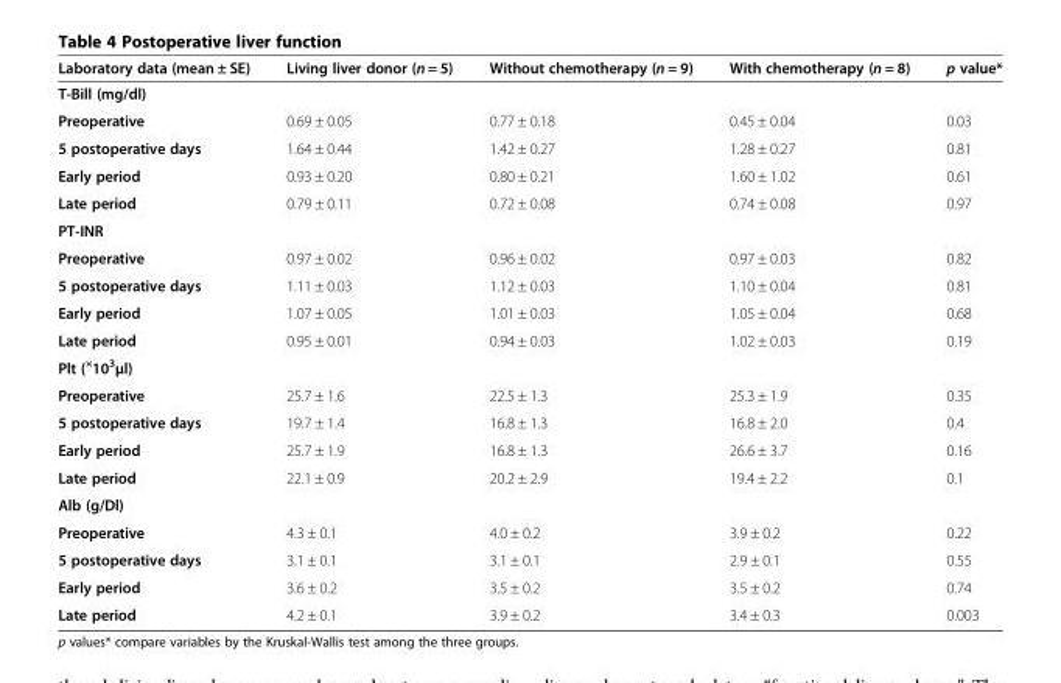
<table><thead><tr><td>Laboratory data (mean ± SE)</td><td>Living liver donor (n = 5)</td><td>Without chemotherapy (n = 9)</td><td>With chemotherapy (n = 8)</td><td>p value*</td></tr></thead><tbody><tr><td colspan="5">T-Bill (mg/dl)</td></tr><tr><td>Preoperative</td><td>0.69 ± 0.05</td><td>0.77 ± 0.18</td><td>0.45 ± 0.04</td><td>0.03</td></tr><tr><td>5 postoperative days</td><td>1.64 ± 0.44</td><td>1.42 ± 0.27</td><td>1.28 ± 0.27</td><td>0.81</td></tr><tr><td>Early period</td><td>0.93 ± 0.20</td><td>0.80 ± 0.21</td><td>1.60 ± 1.02</td><td>0.61</td></tr><tr><td>Late period</td><td>0.79 ± 0.11</td><td>0.72 ± 0.08</td><td>0.74 ± 0.08</td><td>0.97</td></tr><tr><td colspan="5">PT-INR</td></tr><tr><td>Preoperative</td><td>0.97 ± 0.02</td><td>0.96 ± 0.02</td><td>0.97 ± 0.03</td><td>0.82</td></tr><tr><td>5 postoperative days</td><td>1.11 ± 0.03</td><td>1.12 ± 0.03</td><td>1.10 ± 0.04</td><td>0.81</td></tr><tr><td>Early period</td><td>1.07 ± 0.05</td><td>1.01 ± 0.03</td><td>1.05 ± 0.04</td><td>0.68</td></tr><tr><td>Late period</td><td>0.95 ± 0.01</td><td>0.94 ± 0.03</td><td>1.02 ± 0.03</td><td>0.19</td></tr><tr><td colspan="5">Plt (<sup>×</sup>10<sup>3</sup>μl)</td></tr><tr><td>Preoperative</td><td>25.7 ± 1.6</td><td>22.5 ± 1.3</td><td>25.3 ± 1.9</td><td>0.35</td></tr><tr><td>5 postoperative days</td><td>19.7 ± 1.4</td><td>16.8 ± 1.3</td><td>16.8 ± 2.0</td><td>0.4</td></tr><tr><td>Early period</td><td>25.7 ± 1.9</td><td>16.8 ± 1.3</td><td>26.6 ± 3.7</td><td>0.16</td></tr><tr><td>Late period</td><td>22.1 ± 0.9</td><td>20.2 ± 2.9</td><td>19.4 ± 2.2</td><td>0.1</td></tr><tr><td colspan="5">Alb (g/Dl)</td></tr><tr><td>Preoperative</td><td>4.3 ± 0.1</td><td>4.0 ± 0.2</td><td>3.9 ± 0.2</td><td>0.22</td></tr><tr><td>5 postoperative days</td><td>3.1 ± 0.1</td><td>3.1 ± 0.1</td><td>2.9 ± 0.1</td><td>0.55</td></tr><tr><td>Early period</td><td>3.6 ± 0.2</td><td>3.5 ± 0.2</td><td>3.5 ± 0.2</td><td>0.74</td></tr><tr><td>Late period</td><td>4.2 ± 0.1</td><td>3.9 ± 0.2</td><td>3.4 ± 0.3</td><td>0.003</td></tr></tbody></table>